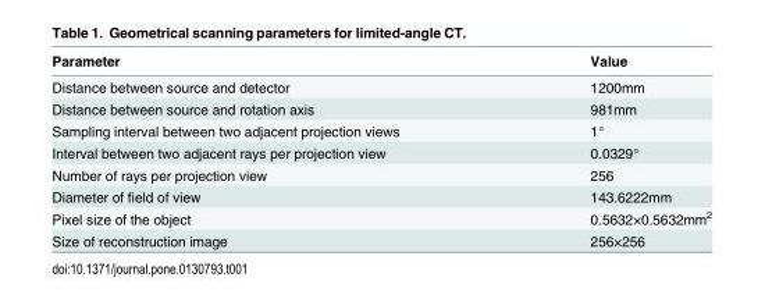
<table><thead><tr><td>Parameter</td><td>Value</td></tr></thead><tbody><tr><td>Distance between source and detector</td><td>1200mm</td></tr><tr><td>Distance between source and rotation axis</td><td>981mm</td></tr><tr><td>Sampling interval between two adjacent projection views</td><td>1°</td></tr><tr><td>Interval between two adjacent rays per projection view</td><td>0.0329°</td></tr><tr><td>Number of rays per projection view</td><td>256</td></tr><tr><td>Diameter of field of view</td><td>143.6222mm</td></tr><tr><td>Pixel size of the object</td><td>0.5632×0.5632mm<sup>2</sup></td></tr><tr><td>Size of reconstruction image</td><td>256×256</td></tr></tbody></table>